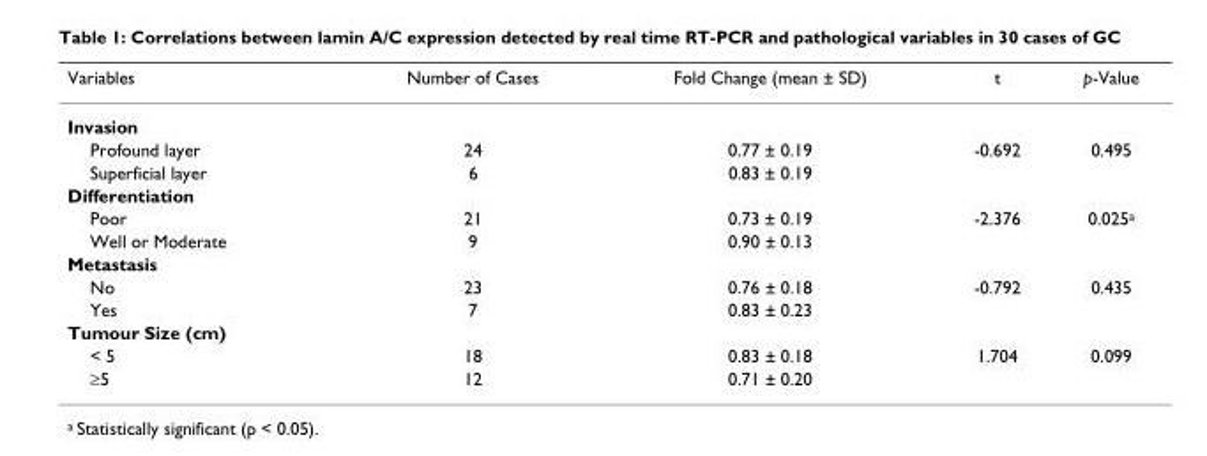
<table><thead><tr><td>Variables</td><td>Number of Cases</td><td>Fold Change (mean ± SD)</td><td>t</td><td>p-Value</td></tr></thead><tbody><tr><td colspan="5">Invasion</td></tr><tr><td>Profound layer</td><td>24</td><td>0.77 ± 0.19</td><td>-0.692</td><td>0.495</td></tr><tr><td>Superficial layer</td><td>6</td><td>0.83 ± 0.19</td><td></td><td></td></tr><tr><td colspan="5">Differentiation</td></tr><tr><td>Poor</td><td>21</td><td>0.73 ± 0.19</td><td>-2.376</td><td>0.025<sup>a</sup></td></tr><tr><td>Well or Moderate</td><td>9</td><td>0.90 ± 0.13</td><td></td><td></td></tr><tr><td colspan="5">Metastasis</td></tr><tr><td>No</td><td>23</td><td>0.76 ± 0.18</td><td>-0.792</td><td>0.435</td></tr><tr><td>Yes</td><td>7</td><td>0.83 ± 0.23</td><td></td><td></td></tr><tr><td colspan="5">Tumour Size (cm)</td></tr><tr><td>&lt; 5</td><td>18</td><td>0.83 ± 0.18</td><td>1.704</td><td>0.099</td></tr><tr><td>≥5</td><td>12</td><td>0.71 ± 0.20</td><td></td><td></td></tr></tbody></table>